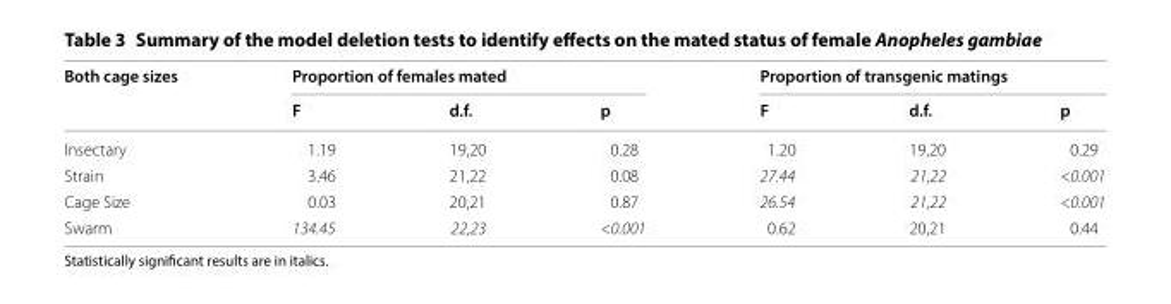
<table><thead><tr><td rowspan="2">Both cage sizes</td><td colspan="3">Proportion of females mated</td><td colspan="3">Proportion of transgenic matings</td></tr><tr><td>F</td><td>d.f.</td><td>p</td><td>F</td><td>d.f.</td><td>p</td></tr></thead><tbody><tr><td>Insectary</td><td>1.19</td><td>19,20</td><td>0.28</td><td>1.20</td><td>19,20</td><td>0.29</td></tr><tr><td>Strain</td><td>3.46</td><td>21,22</td><td>0.08</td><td>27.44</td><td>21,22</td><td>&lt;0.001</td></tr><tr><td>Cage Size</td><td>0.03</td><td>20,21</td><td>0.87</td><td>26.54</td><td>21,22</td><td>&lt;0.001</td></tr><tr><td>Swarm</td><td>134.45</td><td>22,23</td><td>&lt;0.001</td><td>0.62</td><td>20,21</td><td>0.44</td></tr></tbody></table>